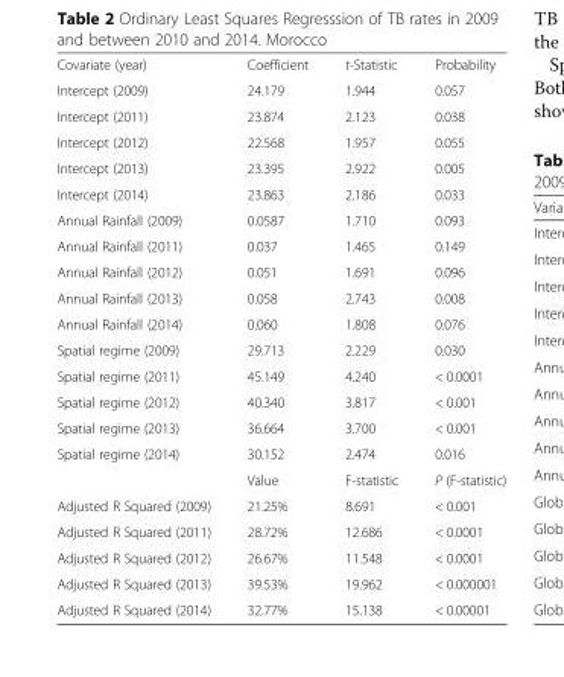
<table><tbody><tr><td>Covariate (year)</td><td>Coefficient</td><td>t-Statistic</td><td>Probability</td></tr><tr><td>Intercept (2009)</td><td>24.179</td><td>1.944</td><td>0.057</td></tr><tr><td>Intercept (2011)</td><td>23.874</td><td>2.123</td><td>0.038</td></tr><tr><td>Intercept (2012)</td><td>22.568</td><td>1.957</td><td>0.055</td></tr><tr><td>Intercept (2013)</td><td>23.395</td><td>2.922</td><td>0.005</td></tr><tr><td>Intercept (2014)</td><td>23.863</td><td>2.186</td><td>0.033</td></tr><tr><td>Annual Rainfall (2009)</td><td>0.0587</td><td>1.710</td><td>0.093</td></tr><tr><td>Annual Rainfall (2011)</td><td>0.037</td><td>1.465</td><td>0.149</td></tr><tr><td>Annual Rainfall (2012)</td><td>0.051</td><td>1.691</td><td>0.096</td></tr><tr><td>Annual Rainfall (2013)</td><td>0.058</td><td>2.743</td><td>0.008</td></tr><tr><td>Annual Rainfall (2014)</td><td>0.060</td><td>1.808</td><td>0.076</td></tr><tr><td>Spatial regime (2009)</td><td>29.713</td><td>2.229</td><td>0.030</td></tr><tr><td>Spatial regime (2011)</td><td>45.149</td><td>4.240</td><td>&lt; 0.0001</td></tr><tr><td>Spatial regime (2012)</td><td>40.340</td><td>3.817</td><td>&lt; 0.001</td></tr><tr><td>Spatial regime (2013)</td><td>36.664</td><td>3.700</td><td>&lt; 0.001</td></tr><tr><td rowspan="2">Spatial regime (2014)</td><td>30.152</td><td>2.474</td><td>0.016</td></tr><tr><td>Value</td><td>F-statistic</td><td>P (F-statistic)</td></tr><tr><td>Adjusted R Squared (2009)</td><td>21.25%</td><td>8.691</td><td>&lt; 0.001</td></tr><tr><td>Adjusted R Squared (2011)</td><td>28.72%</td><td>12.686</td><td>&lt; 0.0001</td></tr><tr><td>Adjusted R Squared (2012)</td><td>26.67%</td><td>11.548</td><td>&lt; 0.0001</td></tr><tr><td>Adjusted R Squared (2013)</td><td>39.53%</td><td>19.962</td><td>&lt; 0.000001</td></tr><tr><td>Adjusted R Squared (2014)</td><td>32.77%</td><td>15.138</td><td>&lt; 0.00001</td></tr></tbody></table>